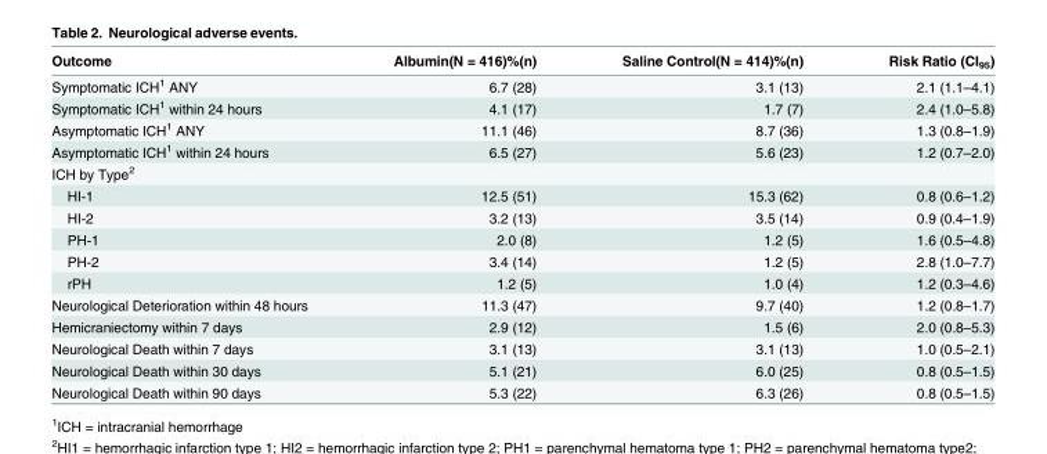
<table><thead><tr><td>Outcome</td><td>Albumin(N = 416)%(n)</td><td>Saline Control(N = 414)%(n)</td><td>Risk Ratio (CI<sub>95</sub>)</td></tr></thead><tbody><tr><td>Symptomatic ICH<sup>1</sup> ANY</td><td>6.7 (28)</td><td>3.1 (13)</td><td>2.1 (1.1–4.1)</td></tr><tr><td>Symptomatic ICH<sup>1</sup> within 24 hours</td><td>4.1 (17)</td><td>1.7 (7)</td><td>2.4 (1.0–5.8)</td></tr><tr><td>Asymptomatic ICH<sup>1</sup> ANY</td><td>11.1 (46)</td><td>8.7 (36)</td><td>1.3 (0.8–1.9)</td></tr><tr><td>Asymptomatic ICH<sup>1</sup> within 24 hours</td><td>6.5 (27)</td><td>5.6 (23)</td><td>1.2 (0.7–2.0)</td></tr><tr><td colspan="4">ICH by Type<sup>2</sup></td></tr><tr><td>HI-1</td><td>12.5 (51)</td><td>15.3 (62)</td><td>0.8 (0.6–1.2)</td></tr><tr><td>HI-2</td><td>3.2 (13)</td><td>3.5 (14)</td><td>0.9 (0.4–1.9)</td></tr><tr><td>PH-1</td><td>2.0 (8)</td><td>1.2 (5)</td><td>1.6 (0.5–4.8)</td></tr><tr><td>PH-2</td><td>3.4 (14)</td><td>1.2 (5)</td><td>2.8 (1.0–7.7)</td></tr><tr><td>rPH</td><td>1.2 (5)</td><td>1.0 (4)</td><td>1.2 (0.3–4.6)</td></tr><tr><td>Neurological Deterioration within 48 hours</td><td>11.3 (47)</td><td>9.7 (40)</td><td>1.2 (0.8–1.7)</td></tr><tr><td>Hemicraniectomy within 7 days</td><td>2.9 (12)</td><td>1.5 (6)</td><td>2.0 (0.8–5.3)</td></tr><tr><td>Neurological Death within 7 days</td><td>3.1 (13)</td><td>3.1 (13)</td><td>1.0 (0.5–2.1)</td></tr><tr><td>Neurological Death within 30 days</td><td>5.1 (21)</td><td>6.0 (25)</td><td>0.8 (0.5–1.5)</td></tr><tr><td>Neurological Death within 90 days</td><td>5.3 (22)</td><td>6.3 (26)</td><td>0.8 (0.5–1.5)</td></tr></tbody></table>